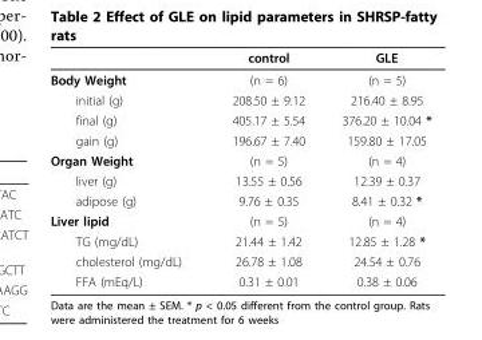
<table><thead><tr><td></td><td>control</td><td>GLE</td></tr></thead><tbody><tr><td>Body Weight</td><td>(n = 6)</td><td>(n = 5)</td></tr><tr><td>initial (g)</td><td>208.50 ± 9.12</td><td>216.40 ± 8.95</td></tr><tr><td>final (g)</td><td>405.17 ± 5.54</td><td>376.20 ± 10.04 *</td></tr><tr><td>gain (g)</td><td>196.67 ± 7.40</td><td>159.80 ± 17.05</td></tr><tr><td>Organ Weight</td><td>(n = 5)</td><td>(n = 4)</td></tr><tr><td>liver (g)</td><td>13.55 ± 0.56</td><td>12.39 ± 0.37</td></tr><tr><td>adipose (g)</td><td>9.76 ± 0.35</td><td>8.41 ± 0.32 *</td></tr><tr><td>Liver lipid</td><td>(n = 5)</td><td>(n = 4)</td></tr><tr><td>TG (mg/dL)</td><td>21.44 ± 1.42</td><td>12.85 ± 1.28 *</td></tr><tr><td>cholesterol (mg/dL)</td><td>26.78 ± 1.08</td><td>24.54 ± 0.76</td></tr><tr><td>FFA (mEq/L)</td><td>0.31 ± 0.01</td><td>0.38 ± 0.06</td></tr></tbody></table>